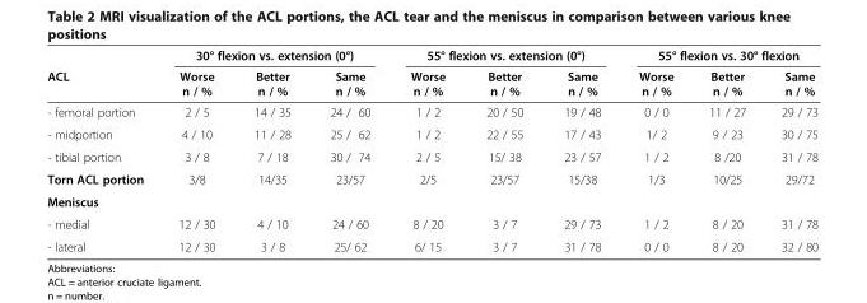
<table><thead><tr><td rowspan="2">ACL</td><td colspan="3">30° flexion vs. extension (0°)</td><td colspan="3">55° flexion vs. extension (0°)</td><td colspan="3">55° flexion vs. 30° flexion</td></tr><tr><td>Worse n / %</td><td>Better n / %</td><td>Same n / %</td><td>Worse n / %</td><td>Better n / %</td><td>Same n / %</td><td>Worse n / %</td><td>Better n / %</td><td>Same n / %</td></tr></thead><tbody><tr><td>- femoral portion</td><td>2 / 5</td><td>14 / 35</td><td>24 / 60</td><td>1 / 2</td><td>20 / 50</td><td>19 / 48</td><td>0 / 0</td><td>11 / 27</td><td>29 / 73</td></tr><tr><td>- midportion</td><td>4 / 10</td><td>11 / 28</td><td>25 / 62</td><td>1 / 2</td><td>22 / 55</td><td>17 / 43</td><td>1/ 2</td><td>9 / 23</td><td>30 / 75</td></tr><tr><td>- tibial portion</td><td>3 / 8</td><td>7 / 18</td><td>30 / 74</td><td>2 / 5</td><td>15/ 38</td><td>23 / 57</td><td>1 / 2</td><td>8 /20</td><td>31 / 78</td></tr><tr><td>Torn ACL portion</td><td>3/8</td><td>14/35</td><td>23/57</td><td>2/5</td><td>23/57</td><td>15/38</td><td>1/3</td><td>10/25</td><td>29/72</td></tr><tr><td colspan="10">Meniscus</td></tr><tr><td>- medial</td><td>12 / 30</td><td>4 / 10</td><td>24 / 60</td><td>8 / 20</td><td>3 / 7</td><td>29 / 73</td><td>1 / 2</td><td>8 / 20</td><td>31 / 78</td></tr><tr><td>- lateral</td><td>12 / 30</td><td>3 / 8</td><td>25/ 62</td><td>6/ 15</td><td>3 / 7</td><td>31 / 78</td><td>0 / 0</td><td>8 / 20</td><td>32 / 80</td></tr></tbody></table>